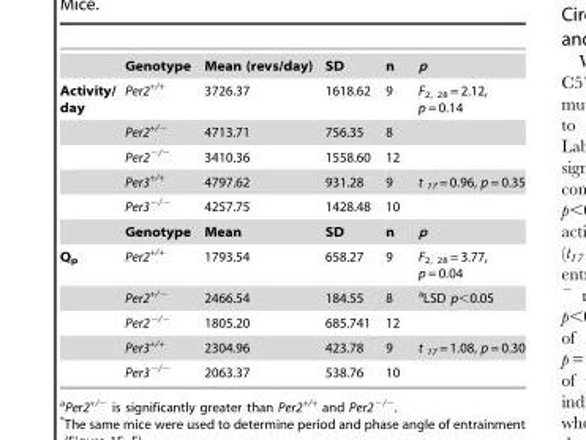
<table><thead><tr><td></td><td>Genotype</td><td>Mean (revs/day)</td><td>SD</td><td>n</td><td>p</td></tr></thead><tbody><tr><td rowspan="6">Activity/ day</td><td>Per2<sup>+/+</sup></td><td>3726.37</td><td>1618.62</td><td>9</td><td>F<sub>2, 28</sub> = 2.12, p = 0.14</td></tr><tr><td>Per2<sup>+/−</sup></td><td>4713.71</td><td>756.35</td><td>8</td><td></td></tr><tr><td>Per2<sup>−/−</sup></td><td>3410.36</td><td>1558.60</td><td>12</td><td></td></tr><tr><td>Per3<sup>+/+</sup></td><td>4797.62</td><td>931.28</td><td>9</td><td>t <sub>17</sub> = 0.96, p = 0.35</td></tr><tr><td>Per3<sup>−/−</sup></td><td>4257.75</td><td>1428.48</td><td>10</td><td></td></tr><tr><td>Genotype</td><td>Mean</td><td>SD</td><td>n</td><td>p</td></tr><tr><td rowspan="5">Q<sub>p</sub></td><td>Per2<sup>+/+</sup></td><td>1793.54</td><td>658.27</td><td>9</td><td>F<sub>2, 28</sub> = 3.77, p = 0.04</td></tr><tr><td>Per2<sup>+/−</sup></td><td>2466.54</td><td>184.55</td><td>8</td><td>aLSD p&lt;0.05</td></tr><tr><td>Per2<sup>−/−</sup></td><td>1805.20</td><td>685.741</td><td>12</td><td></td></tr><tr><td>Per3<sup>+/+</sup></td><td>2304.96</td><td>423.78</td><td>9</td><td>t <sub>17</sub> = 1.08, p = 0.30</td></tr><tr><td>Per3<sup>−/−</sup></td><td>2063.37</td><td>538.76</td><td>10</td><td></td></tr></tbody></table>